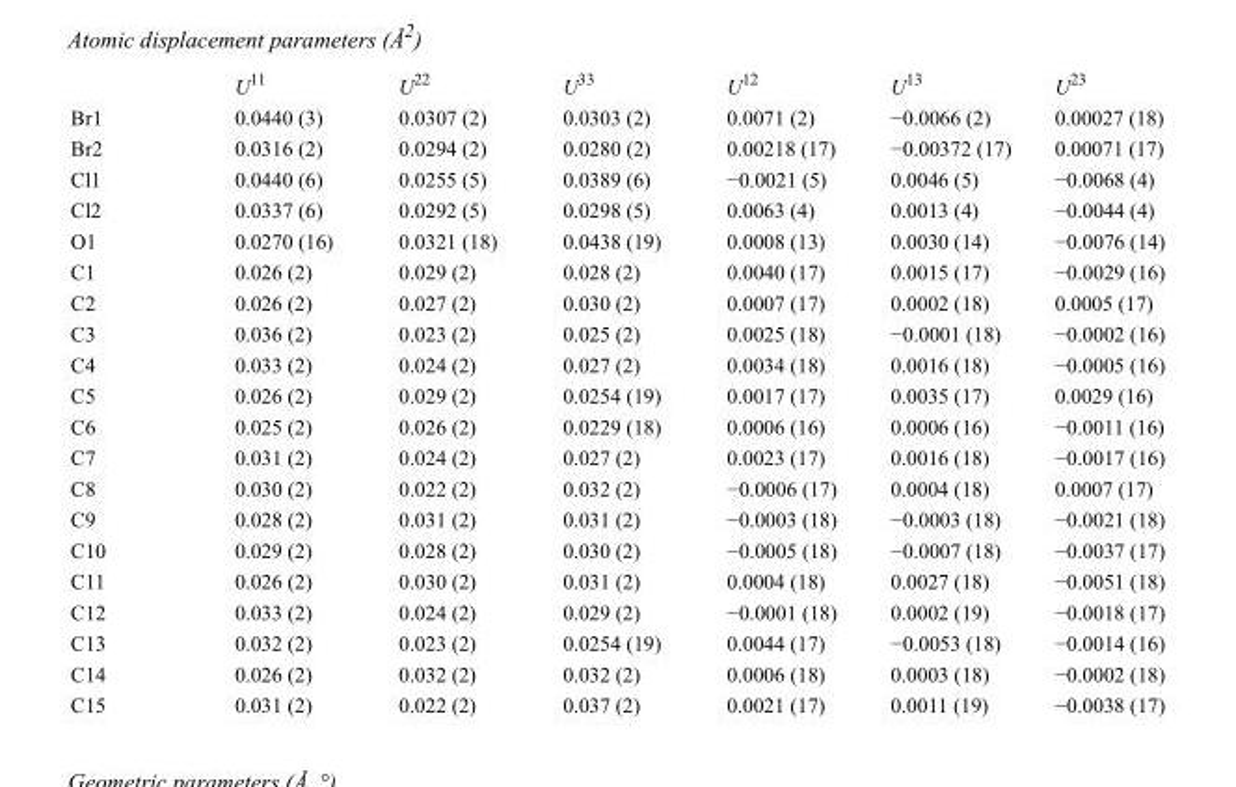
<table><thead><tr><td></td><td>U<sup>11</sup></td><td>U<sup>22</sup></td><td>U<sup>33</sup></td><td>U<sup>12</sup></td><td>U<sup>13</sup></td><td>U<sup>23</sup></td></tr></thead><tbody><tr><td>Br1</td><td>0.0440 (3)</td><td>0.0307 (2)</td><td>0.0303 (2)</td><td>0.0071 (2)</td><td>−0.0066 (2)</td><td>0.00027 (18)</td></tr><tr><td>Br2</td><td>0.0316 (2)</td><td>0.0294 (2)</td><td>0.0280 (2)</td><td>0.00218 (17)</td><td>−0.00372 (17)</td><td>0.00071 (17)</td></tr><tr><td>Cl1</td><td>0.0440 (6)</td><td>0.0255 (5)</td><td>0.0389 (6)</td><td>−0.0021 (5)</td><td>0.0046 (5)</td><td>−0.0068 (4)</td></tr><tr><td>Cl2</td><td>0.0337 (6)</td><td>0.0292 (5)</td><td>0.0298 (5)</td><td>0.0063 (4)</td><td>0.0013 (4)</td><td>−0.0044 (4)</td></tr><tr><td>O1</td><td>0.0270 (16)</td><td>0.0321 (18)</td><td>0.0438 (19)</td><td>0.0008 (13)</td><td>0.0030 (14)</td><td>−0.0076 (14)</td></tr><tr><td>C1</td><td>0.026 (2)</td><td>0.029 (2)</td><td>0.028 (2)</td><td>0.0040 (17)</td><td>0.0015 (17)</td><td>−0.0029 (16)</td></tr><tr><td>C2</td><td>0.026 (2)</td><td>0.027 (2)</td><td>0.030 (2)</td><td>0.0007 (17)</td><td>0.0002 (18)</td><td>0.0005 (17)</td></tr><tr><td>C3</td><td>0.036 (2)</td><td>0.023 (2)</td><td>0.025 (2)</td><td>0.0025 (18)</td><td>−0.0001 (18)</td><td>−0.0002 (16)</td></tr><tr><td>C4</td><td>0.033 (2)</td><td>0.024 (2)</td><td>0.027 (2)</td><td>0.0034 (18)</td><td>0.0016 (18)</td><td>−0.0005 (16)</td></tr><tr><td>C5</td><td>0.026 (2)</td><td>0.029 (2)</td><td>0.0254 (19)</td><td>0.0017 (17)</td><td>0.0035 (17)</td><td>0.0029 (16)</td></tr><tr><td>C6</td><td>0.025 (2)</td><td>0.026 (2)</td><td>0.0229 (18)</td><td>0.0006 (16)</td><td>0.0006 (16)</td><td>−0.0011 (16)</td></tr><tr><td>C7</td><td>0.031 (2)</td><td>0.024 (2)</td><td>0.027 (2)</td><td>0.0023 (17)</td><td>0.0016 (18)</td><td>−0.0017 (16)</td></tr><tr><td>C8</td><td>0.030 (2)</td><td>0.022 (2)</td><td>0.032 (2)</td><td>−0.0006 (17)</td><td>0.0004 (18)</td><td>0.0007 (17)</td></tr><tr><td>C9</td><td>0.028 (2)</td><td>0.031 (2)</td><td>0.031 (2)</td><td>−0.0003 (18)</td><td>−0.0003 (18)</td><td>−0.0021 (18)</td></tr><tr><td>C10</td><td>0.029 (2)</td><td>0.028 (2)</td><td>0.030 (2)</td><td>−0.0005 (18)</td><td>−0.0007 (18)</td><td>−0.0037 (17)</td></tr><tr><td>C11</td><td>0.026 (2)</td><td>0.030 (2)</td><td>0.031 (2)</td><td>0.0004 (18)</td><td>0.0027 (18)</td><td>−0.0051 (18)</td></tr><tr><td>C12</td><td>0.033 (2)</td><td>0.024 (2)</td><td>0.029 (2)</td><td>−0.0001 (18)</td><td>0.0002 (19)</td><td>−0.0018 (17)</td></tr><tr><td>C13</td><td>0.032 (2)</td><td>0.023 (2)</td><td>0.0254 (19)</td><td>0.0044 (17)</td><td>−0.0053 (18)</td><td>−0.0014 (16)</td></tr><tr><td>C14</td><td>0.026 (2)</td><td>0.032 (2)</td><td>0.032 (2)</td><td>0.0006 (18)</td><td>0.0003 (18)</td><td>−0.0002 (18)</td></tr><tr><td>C15</td><td>0.031 (2)</td><td>0.022 (2)</td><td>0.037 (2)</td><td>0.0021 (17)</td><td>0.0011 (19)</td><td>−0.0038 (17)</td></tr></tbody></table>